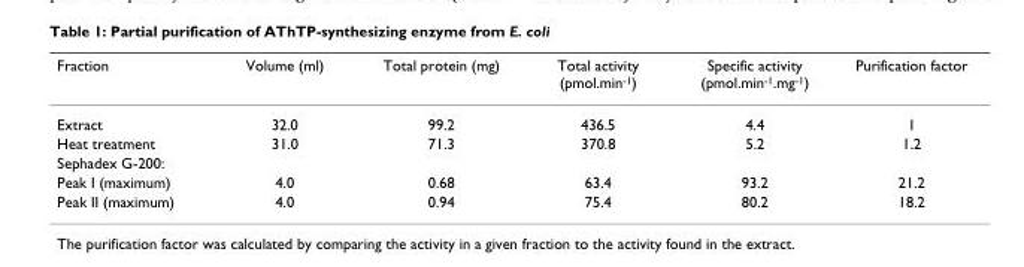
<table><thead><tr><td>Fraction</td><td>Volume (ml)</td><td>Total protein (mg)</td><td>Total activity (pmol.min<sup>-1</sup>)</td><td>Specific activity (pmol.min<sup>-1</sup>.mg<sup>-1</sup>)</td><td>Purification factor</td></tr></thead><tbody><tr><td>Extract</td><td>32.0</td><td>99.2</td><td>436.5</td><td>4.4</td><td>1</td></tr><tr><td>Heat treatment</td><td>31.0</td><td>71.3</td><td>370.8</td><td>5.2</td><td>1.2</td></tr><tr><td colspan="6">Sephadex G-200:</td></tr><tr><td>Peak I (maximum)</td><td>4.0</td><td>0.68</td><td>63.4</td><td>93.2</td><td>21.2</td></tr><tr><td>Peak II (maximum)</td><td>4.0</td><td>0.94</td><td>75.4</td><td>80.2</td><td>18.2</td></tr></tbody></table>